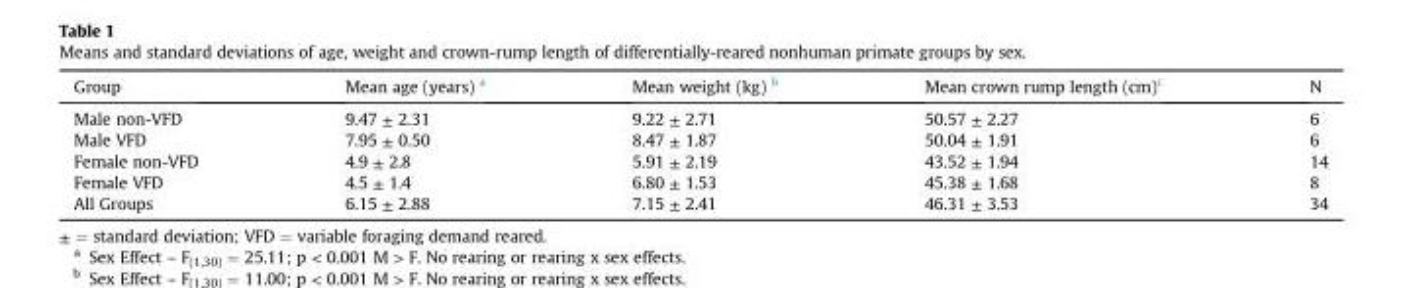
<table><thead><tr><td>Group</td><td>Mean age (years) a</td><td>Mean weight (kg) b</td><td>Mean crown rump length (cm)<sup>c</sup></td><td>N</td></tr></thead><tbody><tr><td>Male non-VFD</td><td>9.47 ± 2.31</td><td>9.22 ± 2.71</td><td>50.57 ± 2.27</td><td>6</td></tr><tr><td>Male VFD</td><td>7.95 ± 0.50</td><td>8.47 ± 1.87</td><td>50.04 ± 1.91</td><td>6</td></tr><tr><td>Female non-VFD</td><td>4.9 ± 2.8</td><td>5.91 ± 2.19</td><td>43.52 ± 1.94</td><td>14</td></tr><tr><td>Female VFD</td><td>4.5 ± 1.4</td><td>6.80 ± 1.53</td><td>45.38 ± 1.68</td><td>8</td></tr><tr><td>All Groups</td><td>6.15 ± 2.88</td><td>7.15 ± 2.41</td><td>46.31 ± 3.53</td><td>34</td></tr></tbody></table>